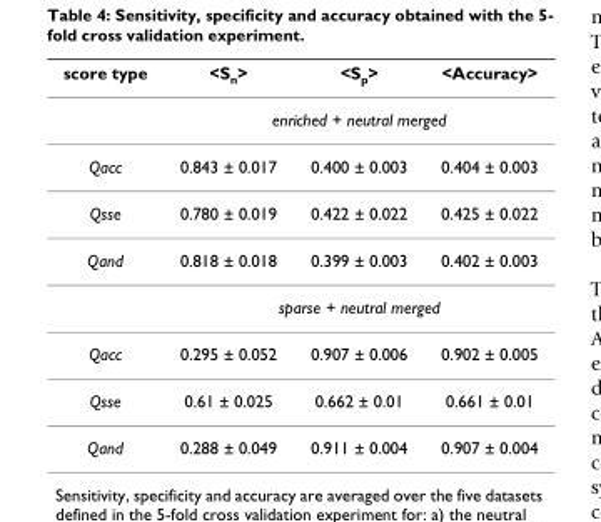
<table><thead><tr><td>score type</td><td>&lt;S<sub>n</sub>&gt;</td><td>&lt;S<sub>p</sub>&gt;</td><td>&lt;Accuracy&gt;</td></tr></thead><tbody><tr><td></td><td colspan="3">enriched + neutral merged</td></tr><tr><td>Qacc</td><td>0.843 ± 0.017</td><td>0.400 ± 0.003</td><td>0.404 ± 0.003</td></tr><tr><td>Qsse</td><td>0.780 ± 0.019</td><td>0.422 ± 0.022</td><td>0.425 ± 0.022</td></tr><tr><td rowspan="2">Qand</td><td>0.818 ± 0.018</td><td>0.399 ± 0.003</td><td>0.402 ± 0.003</td></tr><tr><td colspan="3">sparse + neutral merged</td></tr><tr><td>Qacc</td><td>0.295 ± 0.052</td><td>0.907 ± 0.006</td><td>0.902 ± 0.005</td></tr><tr><td>Qsse</td><td>0.61 ± 0.025</td><td>0.662 ± 0.01</td><td>0.661 ± 0.01</td></tr><tr><td>Qand</td><td>0.288 ± 0.049</td><td>0.911 ± 0.004</td><td>0.907 ± 0.004</td></tr></tbody></table>